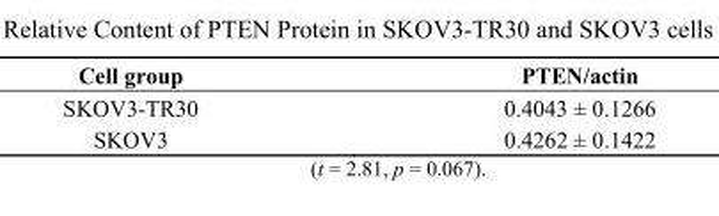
<table><thead><tr><td>Cell group</td><td>PTEN/actin</td></tr></thead><tbody><tr><td>SKOV3-TR30</td><td>0.4043 ± 0.1266</td></tr><tr><td>SKOV3</td><td>0.4262 ± 0.1422</td></tr></tbody></table>